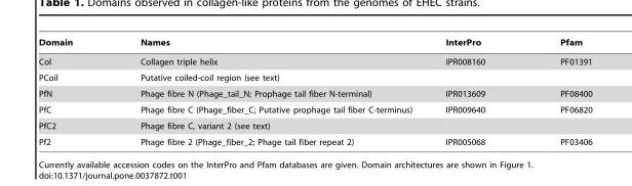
<table><thead><tr><td>Domain</td><td>Names</td><td>InterPro</td><td>Pfam</td></tr></thead><tbody><tr><td>Col</td><td>Collagen triple helix</td><td>IPR008160</td><td>PF01391</td></tr><tr><td>PCoil</td><td>Putative coiled-coil region (see text)</td><td></td><td></td></tr><tr><td>PfN</td><td>Phage fibre N (Phage_tail_N; Prophage tail fiber N-terminal)</td><td>IPR013609</td><td>PF08400</td></tr><tr><td>PfC</td><td>Phage fibre C (Phage_fiber_C; Putative prophage tail fiber C-terminus)</td><td>IPR009640</td><td>PF06820</td></tr><tr><td>PfC2</td><td>Phage fibre C, variant 2 (see text)</td><td></td><td></td></tr><tr><td>Pf2</td><td>Phage fibre 2 (Phage_fiber_2; Phage tail fiber repeat 2)</td><td>IPR005068</td><td>PF03406</td></tr></tbody></table>